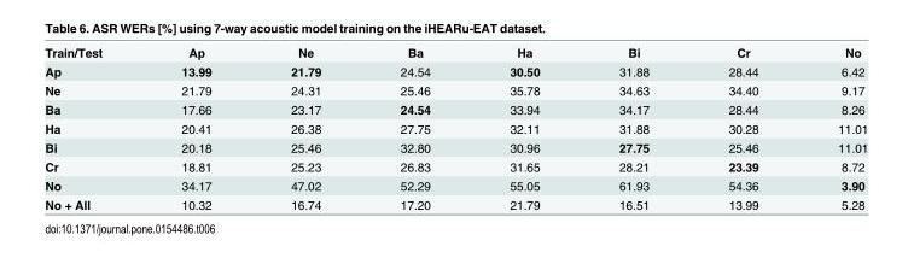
<table><tbody><tr><td>Train/Test</td><td>Ap</td><td>Ne</td><td>Ba</td><td>Ha</td><td>Bi</td><td>Cr</td><td>No</td></tr><tr><td>Ap</td><td>13.99</td><td>21.79</td><td>24.54</td><td>30.50</td><td>31.88</td><td>28.44</td><td>6.42</td></tr><tr><td>Ne</td><td>21.79</td><td>24.31</td><td>25.46</td><td>35.78</td><td>34.63</td><td>34.40</td><td>9.17</td></tr><tr><td>Ba</td><td>17.66</td><td>23.17</td><td>24.54</td><td>33.94</td><td>34.17</td><td>28.44</td><td>8.26</td></tr><tr><td>Ha</td><td>20.41</td><td>26.38</td><td>27.75</td><td>32.11</td><td>31.88</td><td>30.28</td><td>11.01</td></tr><tr><td>Bi</td><td>20.18</td><td>25.46</td><td>32.80</td><td>30.96</td><td>27.75</td><td>25.46</td><td>11.01</td></tr><tr><td>Cr</td><td>18.81</td><td>25.23</td><td>26.83</td><td>31.65</td><td>28.21</td><td>23.39</td><td>8.72</td></tr><tr><td>No</td><td>34.17</td><td>47.02</td><td>52.29</td><td>55.05</td><td>61.93</td><td>54.36</td><td>3.90</td></tr><tr><td>No + All</td><td>10.32</td><td>16.74</td><td>17.20</td><td>21.79</td><td>16.51</td><td>13.99</td><td>5.28</td></tr></tbody></table>